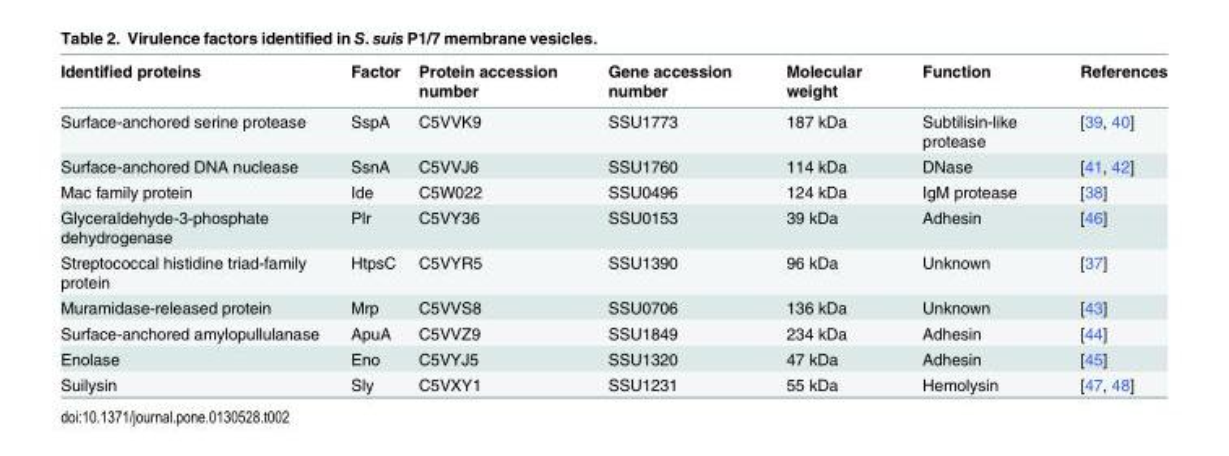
<table><thead><tr><td>Identified proteins</td><td>Factor</td><td>Protein accession number</td><td>Gene accession number</td><td>Molecular weight</td><td>Function</td><td>References</td></tr></thead><tbody><tr><td>Surface-anchored serine protease</td><td>SspA</td><td>C5VVK9</td><td>SSU1773</td><td>187 kDa</td><td>Subtilisin-like protease</td><td>[39, 40]</td></tr><tr><td>Surface-anchored DNA nuclease</td><td>SsnA</td><td>C5VVJ6</td><td>SSU1760</td><td>114 kDa</td><td>DNase</td><td>[41, 42]</td></tr><tr><td>Mac family protein</td><td>Ide</td><td>C5W022</td><td>SSU0496</td><td>124 kDa</td><td>IgM protease</td><td>[38]</td></tr><tr><td>Glyceraldehyde-3-phosphate dehydrogenase</td><td>Plr</td><td>C5VY36</td><td>SSU0153</td><td>39 kDa</td><td>Adhesin</td><td>[46]</td></tr><tr><td>Streptococcal histidine triad-family protein</td><td>HtpsC</td><td>C5VYR5</td><td>SSU1390</td><td>96 kDa</td><td>Unknown</td><td>[37]</td></tr><tr><td>Muramidase-released protein</td><td>Mrp</td><td>C5VVS8</td><td>SSU0706</td><td>136 kDa</td><td>Unknown</td><td>[43]</td></tr><tr><td>Surface-anchored amylopullulanase</td><td>ApuA</td><td>C5VVZ9</td><td>SSU1849</td><td>234 kDa</td><td>Adhesin</td><td>[44]</td></tr><tr><td>Enolase</td><td>Eno</td><td>C5VYJ5</td><td>SSU1320</td><td>47 kDa</td><td>Adhesin</td><td>[45]</td></tr><tr><td>Suilysin</td><td>Sly</td><td>C5VXY1</td><td>SSU1231</td><td>55 kDa</td><td>Hemolysin</td><td>[47, 48]</td></tr></tbody></table>